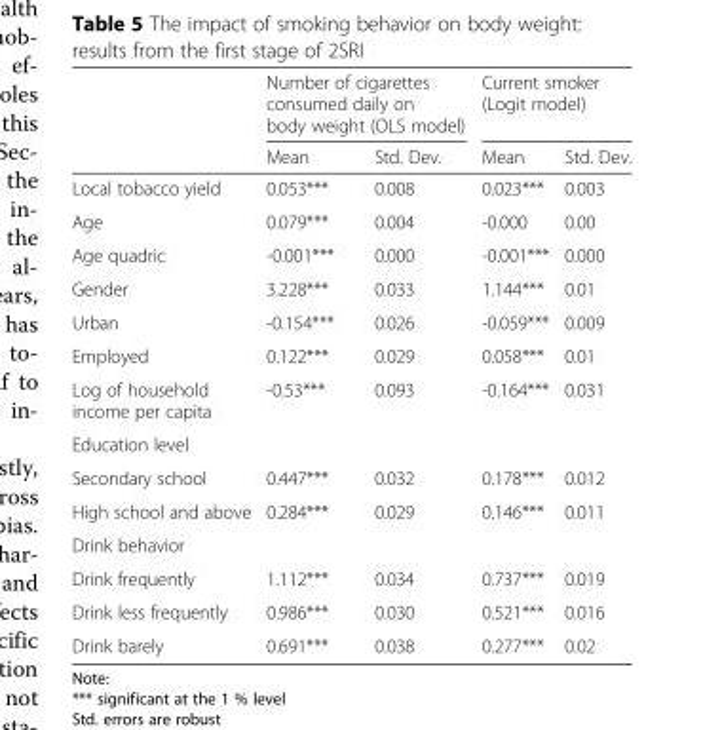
<table><thead><tr><td rowspan="2"></td><td colspan="2">Number of cigarettes consumed daily on body weight (OLS model)</td><td colspan="2">Current smoker (Logit model)</td></tr><tr><td>Mean</td><td>Std. Dev.</td><td>Mean</td><td>Std. Dev.</td></tr></thead><tbody><tr><td>Local tobacco yield</td><td>0.053***</td><td>0.008</td><td>0.023***</td><td>0.003</td></tr><tr><td>Age</td><td>0.079***</td><td>0.004</td><td>-0.000</td><td>0.00</td></tr><tr><td>Age quadric</td><td>-0.001***</td><td>0.000</td><td>-0.001***</td><td>0.000</td></tr><tr><td>Gender</td><td>3.228***</td><td>0.033</td><td>1.144***</td><td>0.01</td></tr><tr><td>Urban</td><td>-0.154***</td><td>0.026</td><td>-0.059***</td><td>0.009</td></tr><tr><td>Employed</td><td>0.122***</td><td>0.029</td><td>0.058***</td><td>0.01</td></tr><tr><td>Log of household income per capita</td><td>-0.53***</td><td>0.093</td><td>-0.164***</td><td>0.031</td></tr><tr><td colspan="5">Education level</td></tr><tr><td>Secondary school</td><td>0.447***</td><td>0.032</td><td>0.178***</td><td>0.012</td></tr><tr><td>High school and above</td><td>0.284***</td><td>0.029</td><td>0.146***</td><td>0.011</td></tr><tr><td colspan="5">Drink behavior</td></tr><tr><td>Drink frequently</td><td>1.112***</td><td>0.034</td><td>0.737***</td><td>0.019</td></tr><tr><td>Drink less frequently</td><td>0.986***</td><td>0.030</td><td>0.521***</td><td>0.016</td></tr><tr><td>Drink barely</td><td>0.691***</td><td>0.038</td><td>0.277***</td><td>0.02</td></tr></tbody></table>